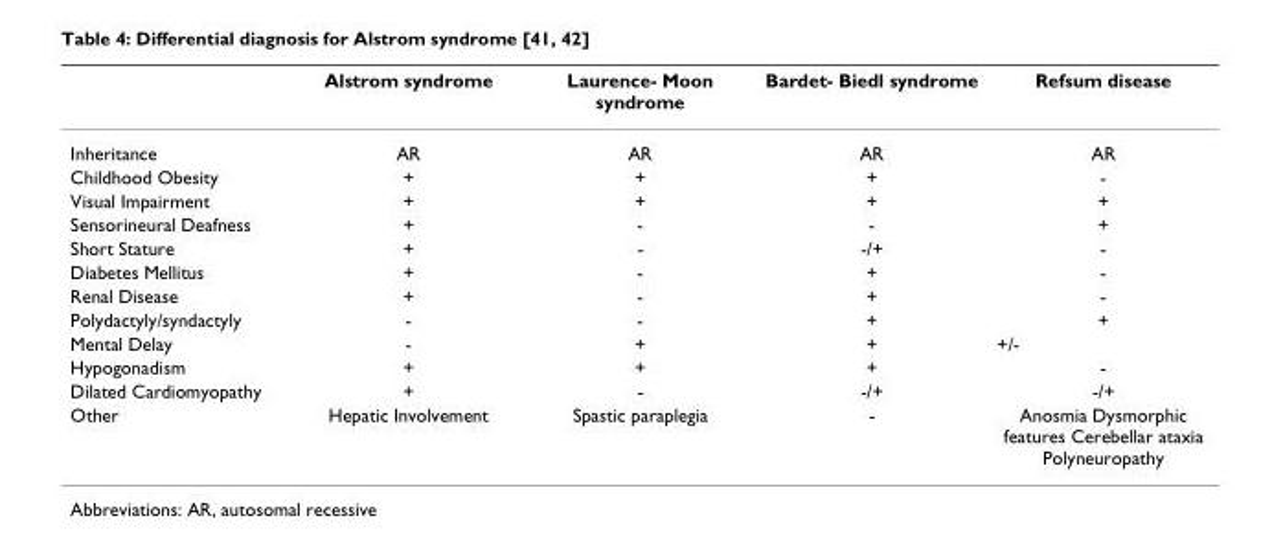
<table><thead><tr><td></td><td>Alstrom syndrome</td><td>Laurence- Moon syndrome</td><td>Bardet- Biedl syndrome</td><td>Refsum disease</td></tr></thead><tbody><tr><td>Inheritance</td><td>AR</td><td>AR</td><td>AR</td><td>AR</td></tr><tr><td>Childhood Obesity</td><td>+</td><td>+</td><td>+</td><td>-</td></tr><tr><td>Visual Impairment</td><td>+</td><td>+</td><td>+</td><td>+</td></tr><tr><td>Sensorineural Deafness</td><td>+</td><td>-</td><td>-</td><td>+</td></tr><tr><td>Short Stature</td><td>+</td><td>-</td><td>-/+</td><td>-</td></tr><tr><td>Diabetes Mellitus</td><td>+</td><td>-</td><td>+</td><td>-</td></tr><tr><td>Renal Disease</td><td>+</td><td>-</td><td>+</td><td>-</td></tr><tr><td>Polydactyly/syndactyly</td><td>-</td><td>-</td><td>+</td><td>+</td></tr><tr><td>Mental Delay</td><td>-</td><td>+</td><td>+</td><td>+/-</td></tr><tr><td>Hypogonadism</td><td>+</td><td>+</td><td>+</td><td>-</td></tr><tr><td>Dilated Cardiomyopathy</td><td>+</td><td>-</td><td>-/+</td><td>-/+</td></tr><tr><td>Other</td><td>Hepatic Involvement</td><td>Spastic paraplegia</td><td>-</td><td>Anosmia Dysmorphic features Cerebellar ataxia Polyneuropathy</td></tr></tbody></table>